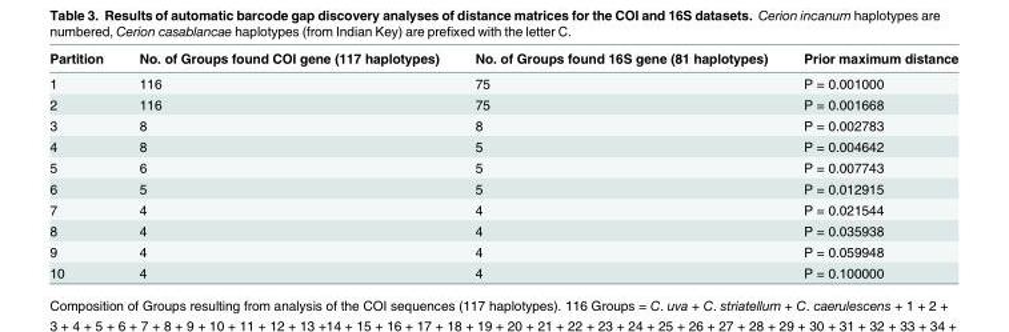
<table><thead><tr><td>Partition</td><td>No. of Groups found COI gene (117 haplotypes)</td><td>No. of Groups found 16S gene (81 haplotypes)</td><td>Prior maximum distance</td></tr></thead><tbody><tr><td>1</td><td>116</td><td>75</td><td>P = 0.001000</td></tr><tr><td>2</td><td>116</td><td>75</td><td>P = 0.001668</td></tr><tr><td>3</td><td>8</td><td>8</td><td>P = 0.002783</td></tr><tr><td>4</td><td>8</td><td>5</td><td>P = 0.004642</td></tr><tr><td>5</td><td>6</td><td>5</td><td>P = 0.007743</td></tr><tr><td>6</td><td>5</td><td>5</td><td>P = 0.012915</td></tr><tr><td>7</td><td>4</td><td>4</td><td>P = 0.021544</td></tr><tr><td>8</td><td>4</td><td>4</td><td>P = 0.035938</td></tr><tr><td>9</td><td>4</td><td>4</td><td>P = 0.059948</td></tr><tr><td>10</td><td>4</td><td>4</td><td>P = 0.100000</td></tr></tbody></table>